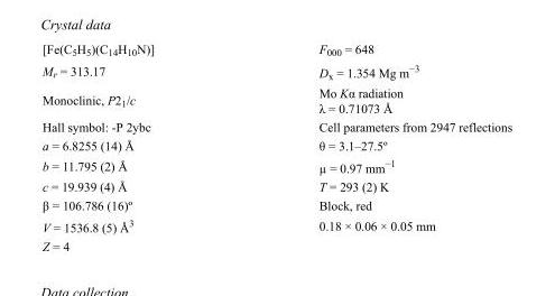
<table><tbody><tr><td>[Fe(C<sub>5</sub>H<sub>5</sub>)(C<sub>14</sub>H<sub>10</sub>N)]</td><td>F<sub>000</sub> = 648</td></tr><tr><td>M<sub>r</sub> = 313.17</td><td>D<sub>x</sub> = 1.354 Mg m<sup>−3</sup></td></tr><tr><td>Monoclinic, P2<sub>1</sub>/c</td><td>Mo Kα radiation λ = 0.71073 Å</td></tr><tr><td>Hall symbol: -P 2ybc</td><td>Cell parameters from 2947 reflections</td></tr><tr><td>a = 6.8255 (14) Å</td><td>θ = 3.1–27.5º</td></tr><tr><td>b = 11.795 (2) Å</td><td>µ = 0.97 mm<sup>−1</sup></td></tr><tr><td>c = 19.939 (4) Å</td><td>T = 293 (2) K</td></tr><tr><td>β = 106.786 (16)º</td><td>Block, red</td></tr><tr><td>V = 1536.8 (5) Å<sup>3</sup></td><td>0.18 × 0.06 × 0.05 mm</td></tr><tr><td>Z = 4</td><td></td></tr></tbody></table>